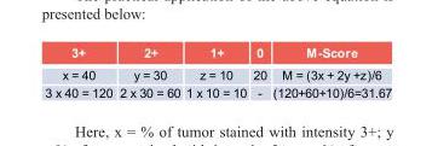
<table><thead><tr><td>3+</td><td>2+</td><td>1+</td><td>0</td><td>M-Score</td></tr></thead><tbody><tr><td>x = 40</td><td>y = 30</td><td>z = 10</td><td>20</td><td>M = (3x + 2y +z)/6</td></tr><tr><td>3 x 40 = 120</td><td>2 x 30 = 60</td><td>1 x 10 = 10</td><td>-</td><td>(120+60+10)/6=31.67</td></tr></tbody></table>